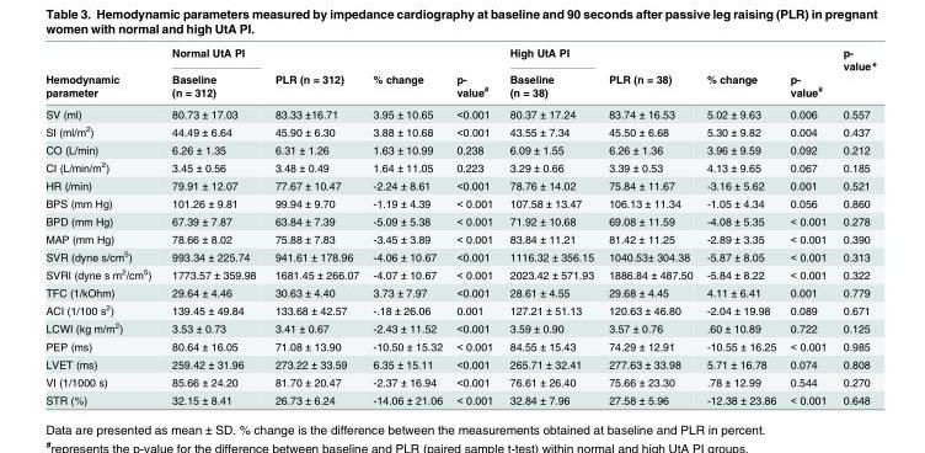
<table><thead><tr><td rowspan="2">Hemodynamic parameter</td><td rowspan="2">Normal UtA PI Baseline (n = 312)</td><td rowspan="2">PLR (n = 312)</td><td rowspan="2">% change</td><td rowspan="2">p- value<sup>#</sup></td><td rowspan="2">High UtA PI Baseline (n = 38)</td><td rowspan="2">PLR (n = 38)</td><td rowspan="2">% change</td><td rowspan="2">p- value<sup>#</sup></td><td rowspan="2">p- value*</td></tr><tr></tr></thead><tbody><tr><td>SV (ml)</td><td>80.73 ± 17.03</td><td>83.33 ±16.71</td><td>3.95 ± 10.65</td><td>&lt;0.001</td><td>80.37 ± 17.24</td><td>83.74 ± 16.53</td><td>5.02 ± 9.63</td><td>0.006</td><td>0.557</td></tr><tr><td>SI (ml/m<sup>2</sup>)</td><td>44.49 ± 6.64</td><td>45.90 ± 6.30</td><td>3.88 ± 10.68</td><td>&lt;0.001</td><td>43.55 ± 7.34</td><td>45.50 ± 6.68</td><td>5.30 ± 9.82</td><td>0.004</td><td>0.437</td></tr><tr><td>CO (L/min)</td><td>6.26 ± 1.35</td><td>6.31 ± 1.26</td><td>1.63 ± 10.99</td><td>0.238</td><td>6.09 ± 1.55</td><td>6.26 ± 1.36</td><td>3.96 ± 9.59</td><td>0.092</td><td>0.212</td></tr><tr><td>CI (L/min/m<sup>2</sup>)</td><td>3.45 ± 0.56</td><td>3.48 ± 0.49</td><td>1.64 ± 11.05</td><td>0.223</td><td>3.29 ± 0.66</td><td>3.39 ± 0.53</td><td>4.13 ± 9.65</td><td>0.067</td><td>0.185</td></tr><tr><td>HR (/min)</td><td>79.91 ± 12.07</td><td>77.67 ± 10.47</td><td>-2.24 ± 8.61</td><td>&lt;0.001</td><td>78.76 ± 14.02</td><td>75.84 ± 11.67</td><td>-3.16 ± 5.62</td><td>0.001</td><td>0.521</td></tr><tr><td>BPS (mm Hg)</td><td>101.26 ± 9.81</td><td>99.94 ± 9.70</td><td>-1.19 ± 4.39</td><td>&lt; 0.001</td><td>107.58 ± 13.47</td><td>106.13 ± 11.34</td><td>-1.05 ± 4.34</td><td>0.056</td><td>0.860</td></tr><tr><td>BPD (mm Hg)</td><td>67.39 ± 7.87</td><td>63.84 ± 7.39</td><td>-5.09 ± 5.38</td><td>&lt; 0.001</td><td>71.92 ± 10.68</td><td>69.08 ± 11.59</td><td>-4.08 ± 5.35</td><td>&lt; 0.001</td><td>0.278</td></tr><tr><td>MAP (mm Hg)</td><td>78.66 ± 8.02</td><td>75.88 ± 7.83</td><td>-3.45 ± 3.89</td><td>&lt; 0.001</td><td>83.84 ± 11.21</td><td>81.42 ± 11.25</td><td>-2.89 ± 3.35</td><td>&lt; 0.001</td><td>0.390</td></tr><tr><td>SVR (dyne s/cm<sup>5</sup>)</td><td>993.34 ± 225.74</td><td>941.61 ± 178.96</td><td>-4.06 ± 10.67</td><td>&lt;0.001</td><td>1116.32 ± 356.15</td><td>1040.53± 304.38</td><td>-5.87 ± 8.05</td><td>&lt; 0.001</td><td>0.313</td></tr><tr><td>SVRI (dyne s m<sup>2</sup>/cm<sup>5</sup>)</td><td>1773.57 ± 359.98</td><td>1681.45 ± 266.07</td><td>-4.07 ± 10.67</td><td>&lt; 0.001</td><td>2023.42 ± 571.93</td><td>1886.84 ± 487.50</td><td>-5.84 ± 8.22</td><td>&lt; 0.001</td><td>0.322</td></tr><tr><td>TFC (1/kOhm)</td><td>29.64 ± 4.46</td><td>30.63 ± 4.40</td><td>3.73 ± 7.97</td><td>&lt;0.001</td><td>28.61 ± 4.55</td><td>29.68 ± 4.45</td><td>4.11 ± 6.41</td><td>0.001</td><td>0.779</td></tr><tr><td>ACI (1/100 s<sup>2</sup>)</td><td>139.45 ± 49.84</td><td>133.68 ± 42.57</td><td>-.18 ± 26.06</td><td>0.001</td><td>127.21 ± 51.13</td><td>120.63 ± 46.80</td><td>-2.04 ± 19.98</td><td>0.089</td><td>0.671</td></tr><tr><td>LCWI (kg m/m<sup>2</sup>)</td><td>3.53 ± 0.73</td><td>3.41 ± 0.67</td><td>-2.43 ± 11.52</td><td>&lt;0.001</td><td>3.59 ± 0.90</td><td>3.57 ± 0.76</td><td>.60 ± 10.89</td><td>0.722</td><td>0.125</td></tr><tr><td>PEP (ms)</td><td>80.64 ± 16.05</td><td>71.08 ± 13.90</td><td>-10.50 ± 15.32</td><td>&lt; 0.001</td><td>84.55 ± 15.43</td><td>74.29 ± 12.91</td><td>-10.55 ± 16.25</td><td>&lt; 0.001</td><td>0.985</td></tr><tr><td>LVET (ms)</td><td>259.42 ± 31.96</td><td>273.22 ± 33.59</td><td>6.35 ± 15.11</td><td>&lt;0.001</td><td>265.71 ± 32.41</td><td>277.63 ± 33.98</td><td>5.71 ± 16.78</td><td>0.074</td><td>0.808</td></tr><tr><td>VI (1/1000 s)</td><td>85.66 ± 24.20</td><td>81.70 ± 20.47</td><td>-2.37 ± 16.94</td><td>&lt;0.001</td><td>76.61 ± 26.40</td><td>75.66 ± 23.30</td><td>.78 ± 12.99</td><td>0.544</td><td>0.270</td></tr><tr><td>STR (%)</td><td>32.15 ± 8.41</td><td>26.73 ± 6.24</td><td>-14.06 ± 21.06</td><td>&lt; 0.001</td><td>32.84 ± 7.96</td><td>27.58 ± 5.96</td><td>-12.38 ± 23.86</td><td>&lt; 0.001</td><td>0.648</td></tr></tbody></table>